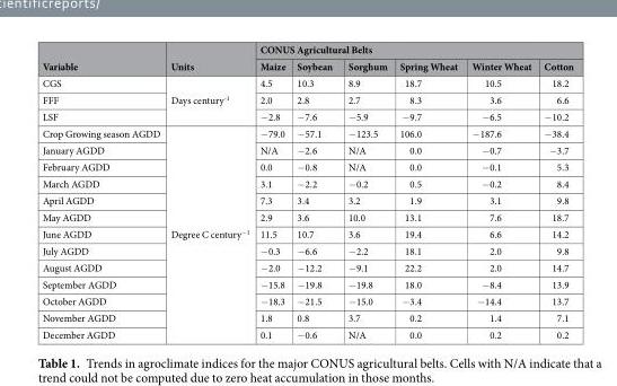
<table><thead><tr><td rowspan="2">Variable</td><td rowspan="2">Units</td><td colspan="6">CONUS Agricultural Belts</td></tr><tr><td>Maize</td><td>Soybean</td><td>Sorghum</td><td>Spring Wheat</td><td>Winter Wheat</td><td>Cotton</td></tr></thead><tbody><tr><td>CGS</td><td rowspan="3">Days century<sup>-1</sup></td><td>4.5</td><td>10.3</td><td>8.9</td><td>18.7</td><td>10.5</td><td>18.2</td></tr><tr><td>FFF</td><td>2.0</td><td>2.8</td><td>2.7</td><td>8.3</td><td>3.6</td><td>6.6</td></tr><tr><td>LSF</td><td>−2.8</td><td>−7.6</td><td>−5.9</td><td>−9.7</td><td>−6.5</td><td>−10.2</td></tr><tr><td>Crop Growing season AGDD</td><td rowspan="13">Degree C century<sup>−1</sup></td><td>−79.0</td><td>−57.1</td><td>−123.5</td><td>106.0</td><td>−187.6</td><td>−38.4</td></tr><tr><td>January AGDD</td><td>N/A</td><td>−2.6</td><td>N/A</td><td>0.0</td><td>−0.7</td><td>−3.7</td></tr><tr><td>February AGDD</td><td>0.0</td><td>−0.8</td><td>N/A</td><td>0.0</td><td>−0.1</td><td>5.3</td></tr><tr><td>March AGDD</td><td>3.1</td><td>−2.2</td><td>−0.2</td><td>0.5</td><td>−0.2</td><td>8.4</td></tr><tr><td>April AGDD</td><td>7.3</td><td>3.4</td><td>3.2</td><td>1.9</td><td>3.1</td><td>9.8</td></tr><tr><td>May AGDD</td><td>2.9</td><td>3.6</td><td>10.0</td><td>13.1</td><td>7.6</td><td>18.7</td></tr><tr><td>June AGDD</td><td>11.5</td><td>10.7</td><td>3.6</td><td>19.4</td><td>6.6</td><td>14.2</td></tr><tr><td>July AGDD</td><td>−0.3</td><td>−6.6</td><td>−2.2</td><td>18.1</td><td>2.0</td><td>9.8</td></tr><tr><td>August AGDD</td><td>−2.0</td><td>−12.2</td><td>−9.1</td><td>22.2</td><td>2.0</td><td>14.7</td></tr><tr><td>September AGDD</td><td>−15.8</td><td>−19.8</td><td>−19.8</td><td>18.0</td><td>−8.4</td><td>13.9</td></tr><tr><td>October AGDD</td><td>−18.3</td><td>−21.5</td><td>−15.0</td><td>−3.4</td><td>−14.4</td><td>13.7</td></tr><tr><td>November AGDD</td><td>1.8</td><td>0.8</td><td>3.7</td><td>0.2</td><td>1.4</td><td>7.1</td></tr><tr><td>December AGDD</td><td>0.1</td><td>−0.6</td><td>N/A</td><td>0.0</td><td>0.2</td><td>0.2</td></tr></tbody></table>